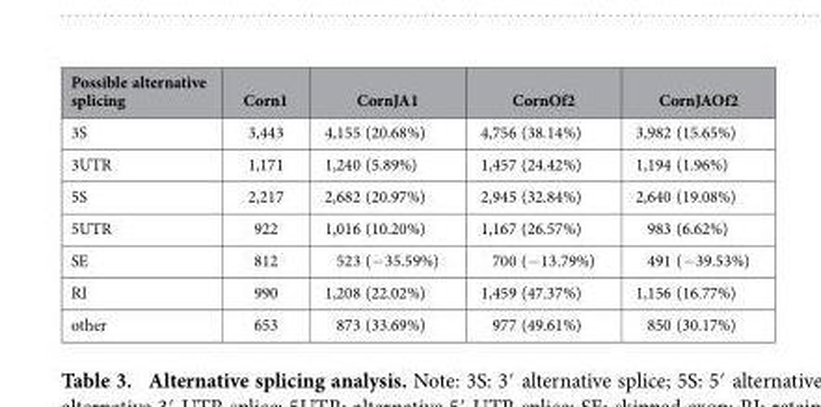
<table><thead><tr><td>Possible alternative splicing</td><td>Corn1</td><td>CornJA1</td><td>CornOf2</td><td>CornJAOf2</td></tr></thead><tbody><tr><td>3S</td><td>3,443</td><td>4,155 (20.68%)</td><td>4,756 (38.14%)</td><td>3,982 (15.65%)</td></tr><tr><td>3UTR</td><td>1,171</td><td>1,240 (5.89%)</td><td>1,457 (24.42%)</td><td>1,194 (1.96%)</td></tr><tr><td>5S</td><td>2,217</td><td>2,682 (20.97%)</td><td>2,945 (32.84%)</td><td>2,640 (19.08%)</td></tr><tr><td>5UTR</td><td>922</td><td>1,016 (10.20%)</td><td>1,167 (26.57%)</td><td>983 (6.62%)</td></tr><tr><td>SE</td><td>812</td><td>523 (− 35.59%)</td><td>700 (− 13.79%)</td><td>491 (− 39.53%)</td></tr><tr><td>RI</td><td>990</td><td>1,208 (22.02%)</td><td>1,459 (47.37%)</td><td>1,156 (16.77%)</td></tr><tr><td>other</td><td>653</td><td>873 (33.69%)</td><td>977 (49.61%)</td><td>850 (30.17%)</td></tr></tbody></table>